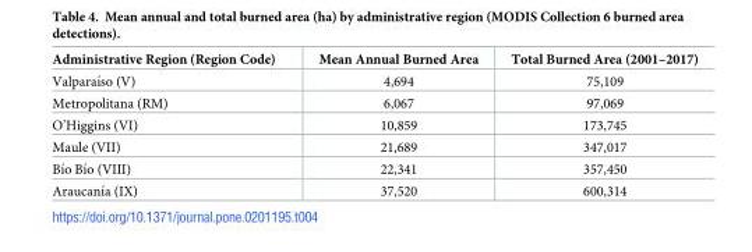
<table><thead><tr><td>Administrative Region (Region Code)</td><td>Mean Annual Burned Area</td><td>Total Burned Area (2001–2017)</td></tr></thead><tbody><tr><td>Valparaı´so (V)</td><td>4,694</td><td>75,109</td></tr><tr><td>Metropolitana (RM)</td><td>6,067</td><td>97,069</td></tr><tr><td>O’Higgins (VI)</td><td>10,859</td><td>173,745</td></tr><tr><td>Maule (VII)</td><td>21,689</td><td>347,017</td></tr><tr><td>Bı´o Bı´o (VIII)</td><td>22,341</td><td>357,450</td></tr><tr><td>Araucanı´a (IX)</td><td>37,520</td><td>600,314</td></tr></tbody></table>